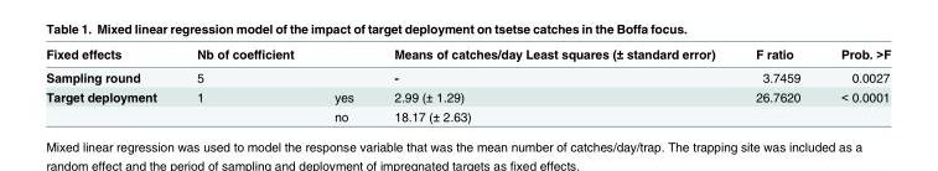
<table><thead><tr><td>Fixed effects</td><td>Nb of coefficient</td><td></td><td>Means of catches/day Least squares (± standard error)</td><td>F ratio</td><td>Prob. &gt;F</td></tr></thead><tbody><tr><td>Sampling round</td><td>5</td><td></td><td>-</td><td>3.7459</td><td>0.0027</td></tr><tr><td rowspan="2">Target deployment</td><td>1</td><td>yes</td><td>2.99 (± 1.29)</td><td>26.7620</td><td>&lt; 0.0001</td></tr><tr><td></td><td>no</td><td>18.17 (± 2.63)</td><td></td><td></td></tr></tbody></table>